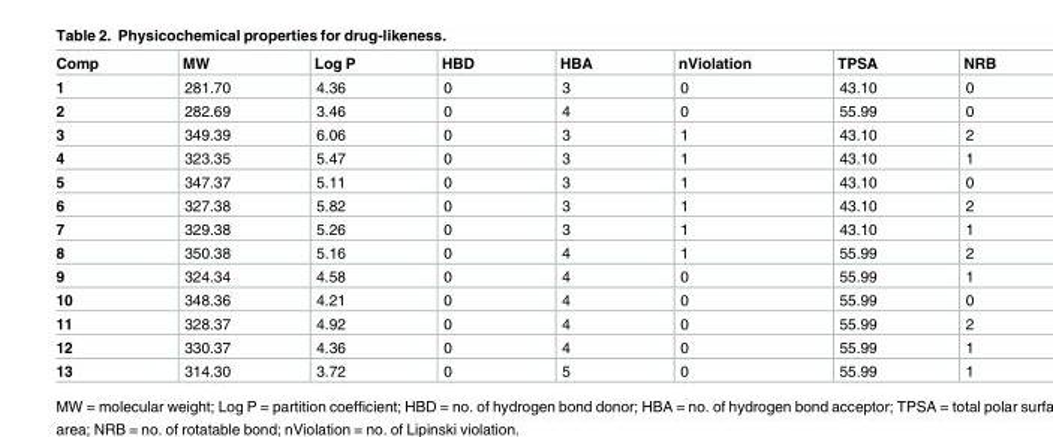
<table><thead><tr><td>Comp</td><td>MW</td><td>Log P</td><td>HBD</td><td>HBA</td><td>nViolation</td><td>TPSA</td><td>NRB</td></tr></thead><tbody><tr><td>1</td><td>281.70</td><td>4.36</td><td>0</td><td>3</td><td>0</td><td>43.10</td><td>0</td></tr><tr><td>2</td><td>282.69</td><td>3.46</td><td>0</td><td>4</td><td>0</td><td>55.99</td><td>0</td></tr><tr><td>3</td><td>349.39</td><td>6.06</td><td>0</td><td>3</td><td>1</td><td>43.10</td><td>2</td></tr><tr><td>4</td><td>323.35</td><td>5.47</td><td>0</td><td>3</td><td>1</td><td>43.10</td><td>1</td></tr><tr><td>5</td><td>347.37</td><td>5.11</td><td>0</td><td>3</td><td>1</td><td>43.10</td><td>0</td></tr><tr><td>6</td><td>327.38</td><td>5.82</td><td>0</td><td>3</td><td>1</td><td>43.10</td><td>2</td></tr><tr><td>7</td><td>329.38</td><td>5.26</td><td>0</td><td>3</td><td>1</td><td>43.10</td><td>1</td></tr><tr><td>8</td><td>350.38</td><td>5.16</td><td>0</td><td>4</td><td>1</td><td>55.99</td><td>2</td></tr><tr><td>9</td><td>324.34</td><td>4.58</td><td>0</td><td>4</td><td>0</td><td>55.99</td><td>1</td></tr><tr><td>10</td><td>348.36</td><td>4.21</td><td>0</td><td>4</td><td>0</td><td>55.99</td><td>0</td></tr><tr><td>11</td><td>328.37</td><td>4.92</td><td>0</td><td>4</td><td>0</td><td>55.99</td><td>2</td></tr><tr><td>12</td><td>330.37</td><td>4.36</td><td>0</td><td>4</td><td>0</td><td>55.99</td><td>1</td></tr><tr><td>13</td><td>314.30</td><td>3.72</td><td>0</td><td>5</td><td>0</td><td>55.99</td><td>1</td></tr></tbody></table>